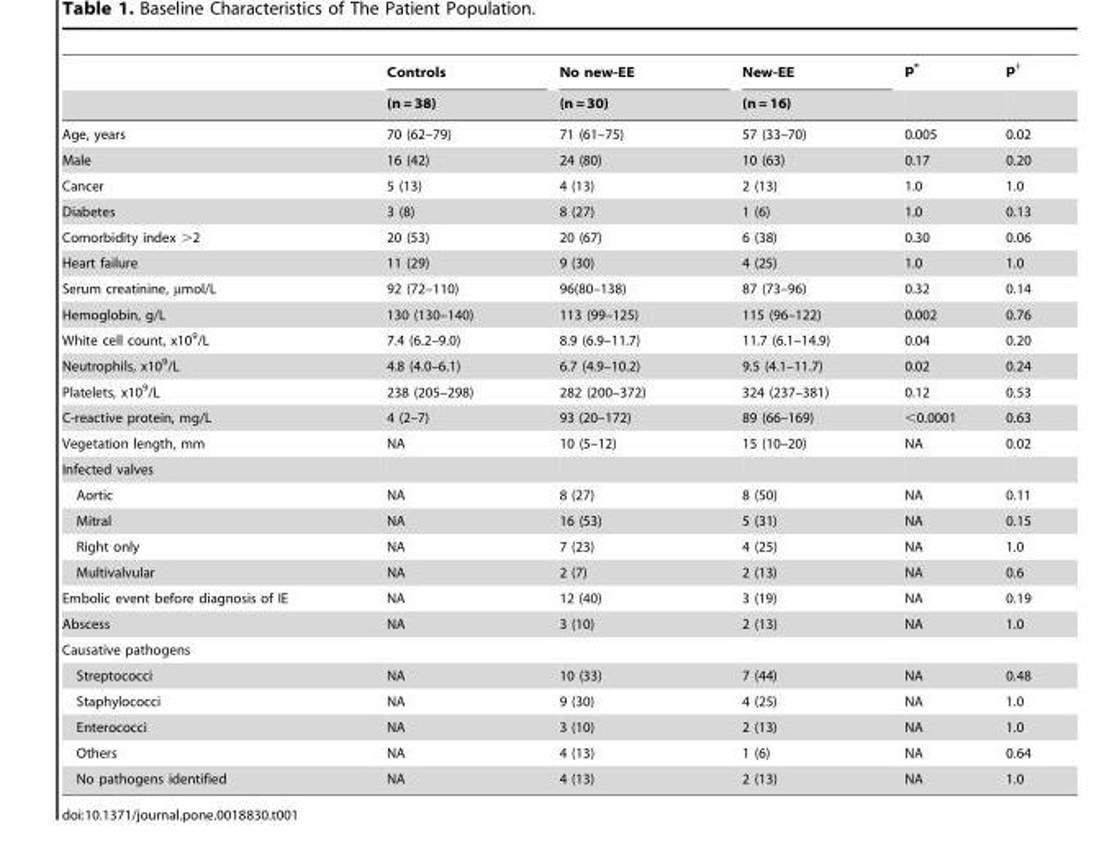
<table><thead><tr><td rowspan="2"></td><td rowspan="2">Controls (n = 38)</td><td rowspan="2">No new-EE (n = 30)</td><td rowspan="2">New-EE (n = 16)</td><td rowspan="2">p*</td><td rowspan="2">p<sup>†</sup></td></tr><tr></tr></thead><tbody><tr><td>Age, years</td><td>70 (62–79)</td><td>71 (61–75)</td><td>57 (33–70)</td><td>0.005</td><td>0.02</td></tr><tr><td>Male</td><td>16 (42)</td><td>24 (80)</td><td>10 (63)</td><td>0.17</td><td>0.20</td></tr><tr><td>Cancer</td><td>5 (13)</td><td>4 (13)</td><td>2 (13)</td><td>1.0</td><td>1.0</td></tr><tr><td>Diabetes</td><td>3 (8)</td><td>8 (27)</td><td>1 (6)</td><td>1.0</td><td>0.13</td></tr><tr><td>Comorbidity index &gt;2</td><td>20 (53)</td><td>20 (67)</td><td>6 (38)</td><td>0.30</td><td>0.06</td></tr><tr><td>Heart failure</td><td>11 (29)</td><td>9 (30)</td><td>4 (25)</td><td>1.0</td><td>1.0</td></tr><tr><td>Serum creatinine, µmol/L</td><td>92 (72–110)</td><td>96(80–138)</td><td>87 (73–96)</td><td>0.32</td><td>0.14</td></tr><tr><td>Hemoglobin, g/L</td><td>130 (130–140)</td><td>113 (99–125)</td><td>115 (96–122)</td><td>0.002</td><td>0.76</td></tr><tr><td>White cell count, x10<sup>9</sup>/L</td><td>7.4 (6.2–9.0)</td><td>8.9 (6.9–11.7)</td><td>11.7 (6.1–14.9)</td><td>0.04</td><td>0.20</td></tr><tr><td>Neutrophils, x10<sup>9</sup>/L</td><td>4.8 (4.0–6.1)</td><td>6.7 (4.9–10.2)</td><td>9.5 (4.1–11.7)</td><td>0.02</td><td>0.24</td></tr><tr><td>Platelets, x10<sup>9</sup>/L</td><td>238 (205–298)</td><td>282 (200–372)</td><td>324 (237–381)</td><td>0.12</td><td>0.53</td></tr><tr><td>C-reactive protein, mg/L</td><td>4 (2–7)</td><td>93 (20–172)</td><td>89 (66–169)</td><td>&lt;0.0001</td><td>0.63</td></tr><tr><td>Vegetation length, mm</td><td>NA</td><td>10 (5–12)</td><td>15 (10–20)</td><td>NA</td><td>0.02</td></tr><tr><td colspan="6">Infected valves</td></tr><tr><td>Aortic</td><td>NA</td><td>8 (27)</td><td>8 (50)</td><td>NA</td><td>0.11</td></tr><tr><td>Mitral</td><td>NA</td><td>16 (53)</td><td>5 (31)</td><td>NA</td><td>0.15</td></tr><tr><td>Right only</td><td>NA</td><td>7 (23)</td><td>4 (25)</td><td>NA</td><td>1.0</td></tr><tr><td>Multivalvular</td><td>NA</td><td>2 (7)</td><td>2 (13)</td><td>NA</td><td>0.6</td></tr><tr><td>Embolic event before diagnosis of IE</td><td>NA</td><td>12 (40)</td><td>3 (19)</td><td>NA</td><td>0.19</td></tr><tr><td>Abscess</td><td>NA</td><td>3 (10)</td><td>2 (13)</td><td>NA</td><td>1.0</td></tr><tr><td colspan="6">Causative pathogens</td></tr><tr><td>Streptococci</td><td>NA</td><td>10 (33)</td><td>7 (44)</td><td>NA</td><td>0.48</td></tr><tr><td>Staphylococci</td><td>NA</td><td>9 (30)</td><td>4 (25)</td><td>NA</td><td>1.0</td></tr><tr><td>Enterococci</td><td>NA</td><td>3 (10)</td><td>2 (13)</td><td>NA</td><td>1.0</td></tr><tr><td>Others</td><td>NA</td><td>4 (13)</td><td>1 (6)</td><td>NA</td><td>0.64</td></tr><tr><td>No pathogens identified</td><td>NA</td><td>4 (13)</td><td>2 (13)</td><td>NA</td><td>1.0</td></tr></tbody></table>